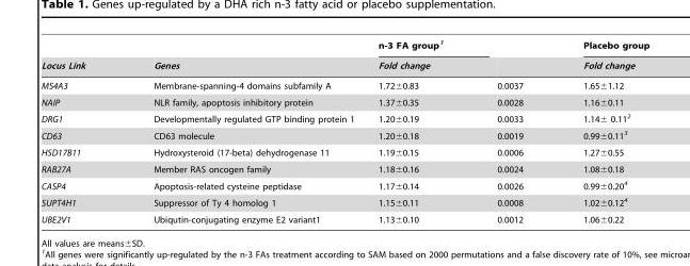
<table><thead><tr><td rowspan="2">Locus Link</td><td rowspan="2">Genes</td><td rowspan="2">n-3 FA group<sup>1</sup> Fold change</td><td rowspan="2"></td><td rowspan="2">Placebo group Fold change</td></tr><tr></tr></thead><tbody><tr><td>MS4A3</td><td>Membrane-spanning-4 domains subfamily A</td><td>1.72±0.83</td><td>0.0037</td><td>1.65±1.12</td></tr><tr><td>NAIP</td><td>NLR family, apoptosis inhibitory protein</td><td>1.37±0.35</td><td>0.0028</td><td>1.16±0.11</td></tr><tr><td>DRG1</td><td>Developmentally regulated GTP binding protein 1</td><td>1.20±0.19</td><td>0.0033</td><td>1.14± 0.11<sup>2</sup></td></tr><tr><td>CD63</td><td>CD63 molecule</td><td>1.20±0.18</td><td>0.0019</td><td>0.99±0.11<sup>3</sup></td></tr><tr><td>HSD17B11</td><td>Hydroxysteroid (17-beta) dehydrogenase 11</td><td>1.19±0.15</td><td>0.0006</td><td>1.27±0.55</td></tr><tr><td>RAB27A</td><td>Member RAS oncogen family</td><td>1.18±0.16</td><td>0.0024</td><td>1.08±0.18</td></tr><tr><td>CASP4</td><td>Apoptosis-related cysteine peptidase</td><td>1.17±0.14</td><td>0.0026</td><td>0.99±0.20<sup>4</sup></td></tr><tr><td>SUPT4H1</td><td>Suppressor of Ty 4 homolog 1</td><td>1.15±0.11</td><td>0.0008</td><td>1.02±0.12<sup>4</sup></td></tr><tr><td>UBE2V1</td><td>Ubiqutin-conjugating enzyme E2 variant1</td><td>1.13±0.10</td><td>0.0012</td><td>1.06±0.22</td></tr></tbody></table>